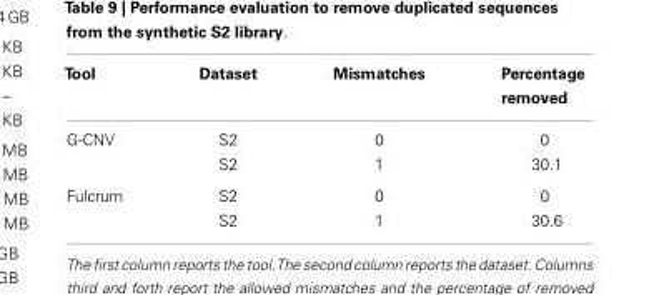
<table><thead><tr><td>Tool</td><td>Dataset</td><td>Mismatches</td><td>Percentage removed</td></tr></thead><tbody><tr><td rowspan="2">G-CNV</td><td>S2</td><td>0</td><td>0</td></tr><tr><td>S2</td><td>1</td><td>30.1</td></tr><tr><td rowspan="2">Fulcrum</td><td>S2</td><td>0</td><td>0</td></tr><tr><td>S2</td><td>1</td><td>30.6</td></tr></tbody></table>